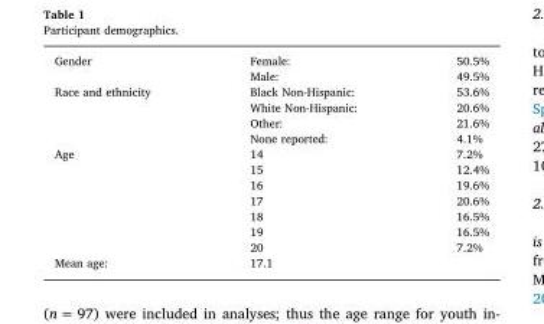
<table><tbody><tr><td rowspan="2">Gender</td><td>Female:</td><td>50.5%</td></tr><tr><td>Male:</td><td>49.5%</td></tr><tr><td rowspan="4">Race and ethnicity</td><td>Black Non-Hispanic:</td><td>53.6%</td></tr><tr><td>White Non-Hispanic:</td><td>20.6%</td></tr><tr><td>Other:</td><td>21.6%</td></tr><tr><td>None reported:</td><td>4.1%</td></tr><tr><td rowspan="7">Age</td><td>14</td><td>7.2%</td></tr><tr><td>15</td><td>12.4%</td></tr><tr><td>16</td><td>19.6%</td></tr><tr><td>17</td><td>20.6%</td></tr><tr><td>18</td><td>16.5%</td></tr><tr><td>19</td><td>16.5%</td></tr><tr><td>20</td><td>7.2%</td></tr><tr><td>Mean age:</td><td>17.1</td><td></td></tr></tbody></table>